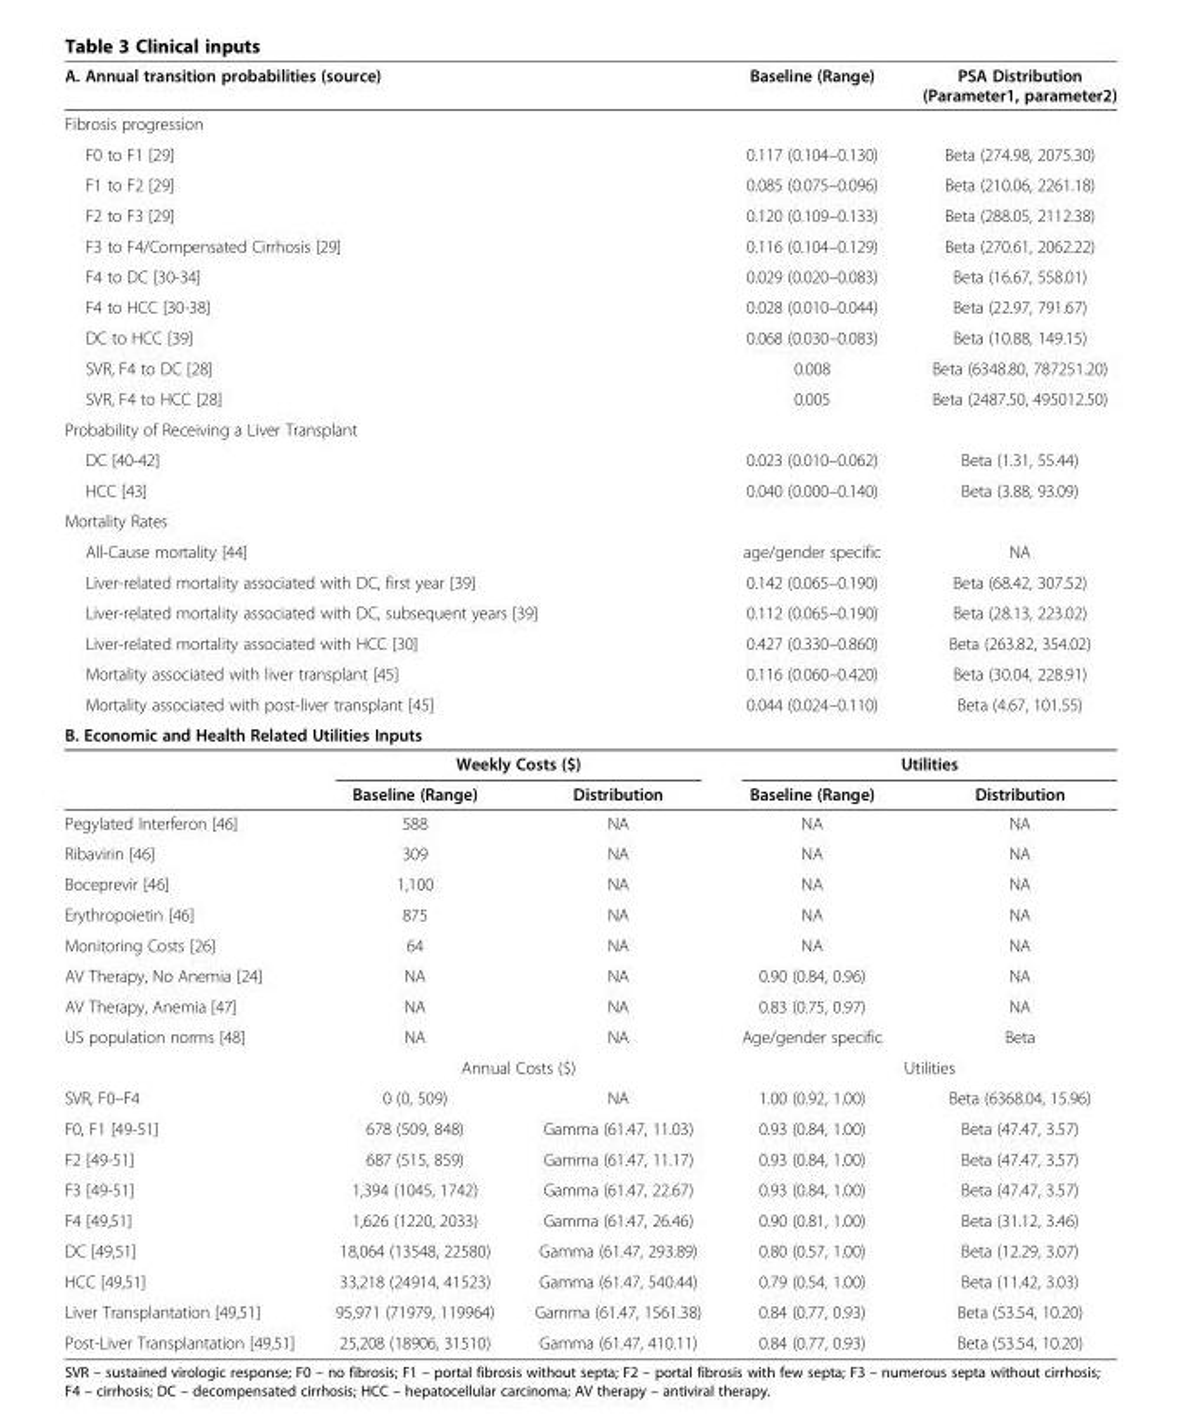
<table><thead><tr><td colspan="3">A. Annual transition probabilities (source)</td><td>Baseline (Range)</td><td>PSA Distribution (Parameter1, parameter2)</td></tr></thead><tbody><tr><td colspan="5">Fibrosis progression</td></tr><tr><td colspan="3">F0 to F1 [29]</td><td>0.117 (0.104–0.130)</td><td>Beta (274.98, 2075.30)</td></tr><tr><td colspan="3">F1 to F2 [29]</td><td>0.085 (0.075–0.096)</td><td>Beta (210.06, 2261.18)</td></tr><tr><td colspan="3">F2 to F3 [29]</td><td>0.120 (0.109–0.133)</td><td>Beta (288.05, 2112.38)</td></tr><tr><td colspan="3">F3 to F4/Compensated Cirrhosis [29]</td><td>0.116 (0.104–0.129)</td><td>Beta (270.61, 2062.22)</td></tr><tr><td colspan="3">F4 to DC [30-34]</td><td>0.029 (0.020–0.083)</td><td>Beta (16.67, 558.01)</td></tr><tr><td colspan="3">F4 to HCC [30-38]</td><td>0.028 (0.010–0.044)</td><td>Beta (22.97, 791.67)</td></tr><tr><td colspan="3">DC to HCC [39]</td><td>0.068 (0.030–0.083)</td><td>Beta (10.88, 149.15)</td></tr><tr><td colspan="3">SVR, F4 to DC [28]</td><td>0.008</td><td>Beta (6348.80, 787251.20)</td></tr><tr><td colspan="3">SVR, F4 to HCC [28]</td><td>0.005</td><td>Beta (2487.50, 495012.50)</td></tr><tr><td colspan="5">Probability of Receiving a Liver Transplant</td></tr><tr><td colspan="3">DC [40-42]</td><td>0.023 (0.010–0.062)</td><td>Beta (1.31, 55.44)</td></tr><tr><td colspan="3">HCC [43]</td><td>0.040 (0.000–0.140)</td><td>Beta (3.88, 93.09)</td></tr><tr><td colspan="5">Mortality Rates</td></tr><tr><td colspan="3">All-Cause mortality [44]</td><td>age/gender specific</td><td>NA</td></tr><tr><td colspan="3">Liver-related mortality associated with DC, first year [39]</td><td>0.142 (0.065–0.190)</td><td>Beta (68.42, 307.52)</td></tr><tr><td colspan="3">Liver-related mortality associated with DC, subsequent years [39]</td><td>0.112 (0.065–0.190)</td><td>Beta (28.13, 223.02)</td></tr><tr><td colspan="3">Liver-related mortality associated with HCC [30]</td><td>0.427 (0.330–0.860)</td><td>Beta (263.82, 354.02)</td></tr><tr><td colspan="3">Mortality associated with liver transplant [45]</td><td>0.116 (0.060–0.420)</td><td>Beta (30.04, 228.91)</td></tr><tr><td colspan="3">Mortality associated with post-liver transplant [45]</td><td>0.044 (0.024–0.110)</td><td>Beta (4.67, 101.55)</td></tr><tr><td colspan="5">B. Economic and Health Related Utilities Inputs</td></tr><tr><td></td><td colspan="2">Weekly Costs ($)</td><td colspan="2">Utilities</td></tr><tr><td></td><td>Baseline (Range)</td><td>Distribution</td><td>Baseline (Range)</td><td>Distribution</td></tr><tr><td>Pegylated Interferon [46]</td><td>588</td><td>NA</td><td>NA</td><td>NA</td></tr><tr><td>Ribavirin [46]</td><td>309</td><td>NA</td><td>NA</td><td>NA</td></tr><tr><td>Boceprevir [46]</td><td>1,100</td><td>NA</td><td>NA</td><td>NA</td></tr><tr><td>Erythropoietin [46]</td><td>875</td><td>NA</td><td>NA</td><td>NA</td></tr><tr><td>Monitoring Costs [26]</td><td>64</td><td>NA</td><td>NA</td><td>NA</td></tr><tr><td>AV Therapy, No Anemia [24]</td><td>NA</td><td>NA</td><td>0.90 (0.84, 0.96)</td><td>NA</td></tr><tr><td>AV Therapy, Anemia [47]</td><td>NA</td><td>NA</td><td>0.83 (0.75, 0.97)</td><td>NA</td></tr><tr><td rowspan="2">US population norms [48]</td><td>NA</td><td>NA</td><td>Age/gender specific</td><td>Beta</td></tr><tr><td colspan="2">Annual Costs ($)</td><td colspan="2">Utilities</td></tr><tr><td>SVR, F0–F4</td><td>0 (0, 509)</td><td>NA</td><td>1.00 (0.92, 1.00)</td><td>Beta (6368.04, 15.96)</td></tr><tr><td>F0, F1 [49-51]</td><td>678 (509, 848)</td><td>Gamma (61.47, 11.03)</td><td>0.93 (0.84, 1.00)</td><td>Beta (47.47, 3.57)</td></tr><tr><td>F2 [49-51]</td><td>687 (515, 859)</td><td>Gamma (61.47, 11.17)</td><td>0.93 (0.84, 1.00)</td><td>Beta (47.47, 3.57)</td></tr><tr><td>F3 [49-51]</td><td>1,394 (1045, 1742)</td><td>Gamma (61.47, 22.67)</td><td>0.93 (0.84, 1.00)</td><td>Beta (47.47, 3.57)</td></tr><tr><td>F4 [49,51]</td><td>1,626 (1220, 2033)</td><td>Gamma (61.47, 26.46)</td><td>0.90 (0.81, 1.00)</td><td>Beta (31.12, 3.46)</td></tr><tr><td>DC [49,51]</td><td>18,064 (13548, 22580)</td><td>Gamma (61.47, 293.89)</td><td>0.80 (0.57, 1.00)</td><td>Beta (12.29, 3.07)</td></tr><tr><td>HCC [49,51]</td><td>33,218 (24914, 41523)</td><td>Gamma (61.47, 540.44)</td><td>0.79 (0.54, 1.00)</td><td>Beta (11.42, 3.03)</td></tr><tr><td>Liver Transplantation [49,51]</td><td>95,971 (71979, 119964)</td><td>Gamma (61.47, 1561.38)</td><td>0.84 (0.77, 0.93)</td><td>Beta (53.54, 10.20)</td></tr><tr><td>Post-Liver Transplantation [49,51]</td><td>25,208 (18906, 31510)</td><td>Gamma (61.47, 410.11)</td><td>0.84 (0.77, 0.93)</td><td>Beta (53.54, 10.20)</td></tr></tbody></table>